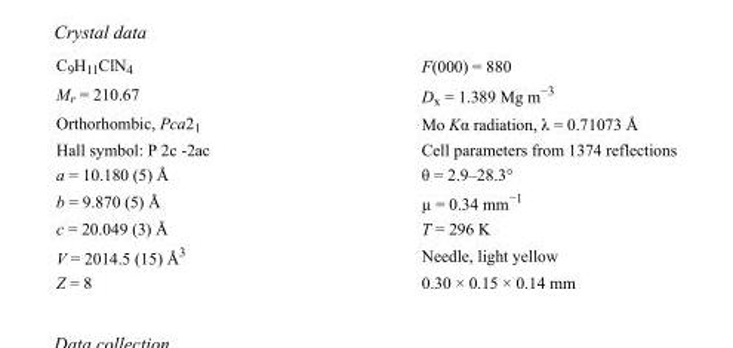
<table><tbody><tr><td>C<sub>9</sub>H<sub>11</sub>ClN<sub>4</sub></td><td>F(000) = 880</td></tr><tr><td>M<sub>r</sub> = 210.67</td><td>D<sub>x</sub> = 1.389 Mg m<sup>−3</sup></td></tr><tr><td>Orthorhombic, Pca2<sub>1</sub></td><td>Mo Kα radiation, λ = 0.71073 Å</td></tr><tr><td>Hall symbol: P 2c -2ac</td><td>Cell parameters from 1374 reflections</td></tr><tr><td>a = 10.180 (5) Å</td><td>θ = 2.9–28.3°</td></tr><tr><td>b = 9.870 (5) Å</td><td>µ = 0.34 mm<sup>−1</sup></td></tr><tr><td>c = 20.049 (3) Å</td><td>T = 296 K</td></tr><tr><td>V = 2014.5 (15) Å<sup>3</sup></td><td>Needle, light yellow</td></tr><tr><td>Z = 8</td><td>0.30 × 0.15 × 0.14 mm</td></tr></tbody></table>